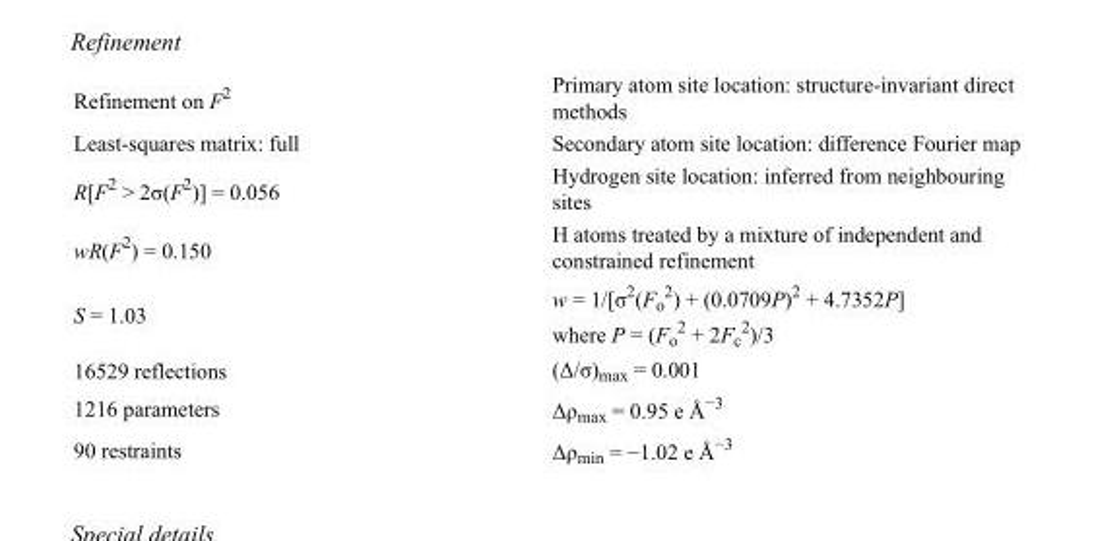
<table><tbody><tr><td>Refinement on F<sup>2</sup></td><td>Primary atom site location: structure-invariant direct methods</td></tr><tr><td>Least-squares matrix: full</td><td>Secondary atom site location: difference Fourier map</td></tr><tr><td>R[F<sup>2</sup> &gt; 2σ(F<sup>2</sup>)] = 0.056</td><td>Hydrogen site location: inferred from neighbouring sites</td></tr><tr><td>wR(F<sup>2</sup>) = 0.150</td><td>H atoms treated by a mixture of independent and constrained refinement</td></tr><tr><td>S = 1.03</td><td>w = 1/[σ<sup>2</sup>(F<sub>o</sub> <sup>2</sup>) + (0.0709P)<sup>2</sup> + 4.7352P] where P = (F<sub>o</sub> <sup>2</sup> + 2F<sub>c</sub> <sup>2</sup>)/3</td></tr><tr><td>16529 reflections</td><td>(Δ/σ)<sub>max</sub> = 0.001</td></tr><tr><td>1216 parameters</td><td>Δρ<sub>max</sub> = 0.95 e Å<sup>−3</sup></td></tr><tr><td>90 restraints</td><td>Δρ<sub>min</sub> = −1.02 e Å<sup>−3</sup></td></tr></tbody></table>